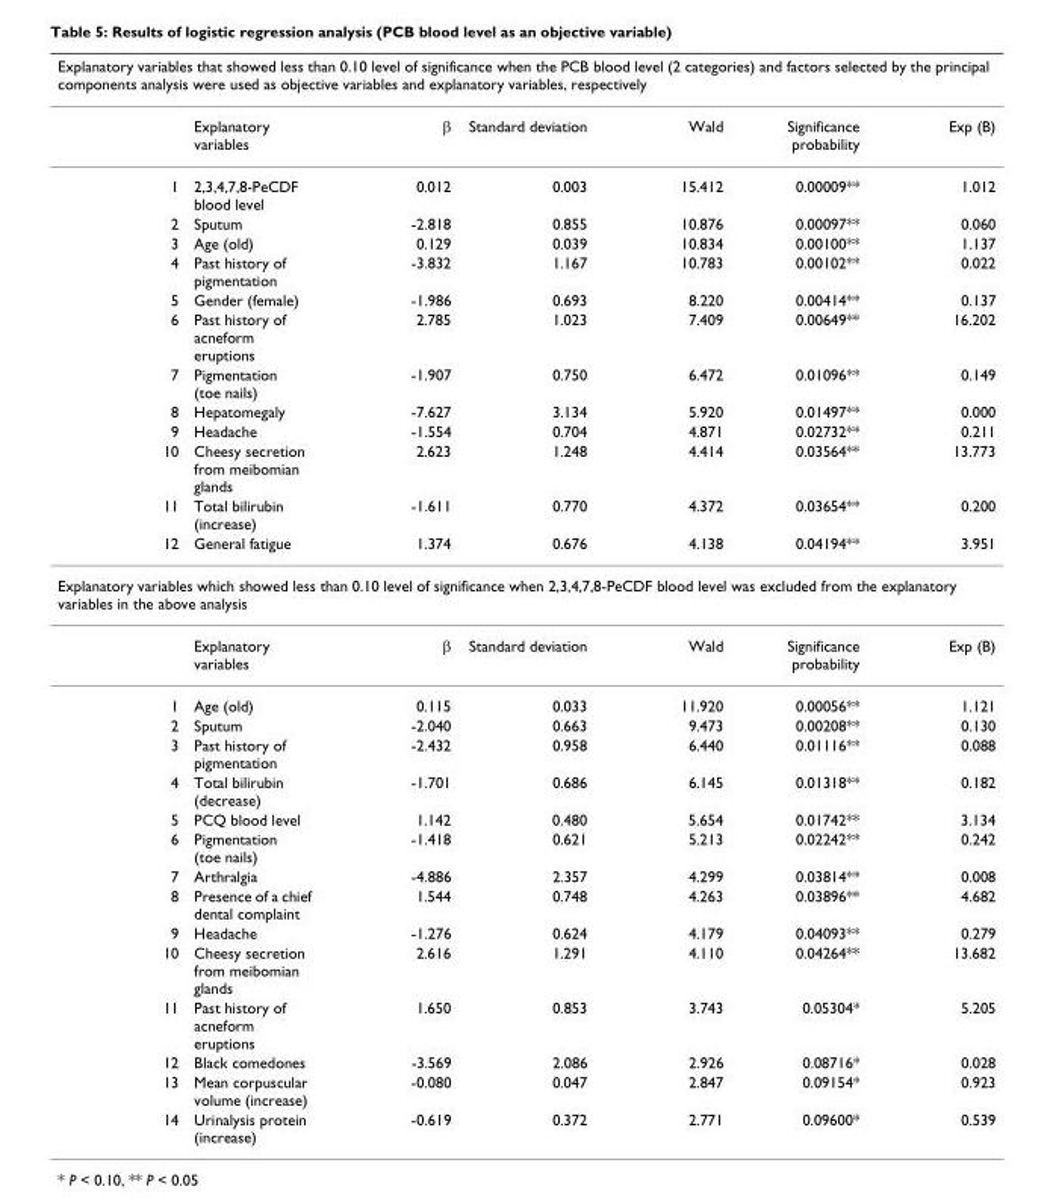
<table><thead><tr><td colspan="7">Explanatory variables that showed less than 0.10 level of significance when the PCB blood level (2 categories) and factors selected by the principal components analysis were used as objective variables and explanatory variables, respectively</td></tr><tr><td></td><td>Explanatory variables</td><td>β</td><td>Standard deviation</td><td>Wald</td><td>Significance probability</td><td>Exp (B)</td></tr></thead><tbody><tr><td>1</td><td>2,3,4,7,8-PeCDF blood level</td><td>0.012</td><td>0.003</td><td>15.412</td><td>0.00009**</td><td>1.012</td></tr><tr><td>2</td><td>Sputum</td><td>-2.818</td><td>0.855</td><td>10.876</td><td>0.00097**</td><td>0.060</td></tr><tr><td>3</td><td>Age (old)</td><td>0.129</td><td>0.039</td><td>10.834</td><td>0.00100**</td><td>1.137</td></tr><tr><td>4</td><td>Past history of pigmentation</td><td>-3.832</td><td>1.167</td><td>10.783</td><td>0.00102**</td><td>0.022</td></tr><tr><td>5</td><td>Gender (female)</td><td>-1.986</td><td>0.693</td><td>8.220</td><td>0.00414**</td><td>0.137</td></tr><tr><td>6</td><td>Past history of acneform eruptions</td><td>2.785</td><td>1.023</td><td>7.409</td><td>0.00649**</td><td>16.202</td></tr><tr><td>7</td><td>Pigmentation (toe nails)</td><td>-1.907</td><td>0.750</td><td>6.472</td><td>0.01096**</td><td>0.149</td></tr><tr><td>8</td><td>Hepatomegaly</td><td>-7.627</td><td>3.134</td><td>5.920</td><td>0.01497**</td><td>0.000</td></tr><tr><td>9</td><td>Headache</td><td>-1.554</td><td>0.704</td><td>4.871</td><td>0.02732**</td><td>0.211</td></tr><tr><td>10</td><td>Cheesy secretion from meibomian glands</td><td>2.623</td><td>1.248</td><td>4.414</td><td>0.03564**</td><td>13.773</td></tr><tr><td>11</td><td>Total bilirubin (increase)</td><td>-1.611</td><td>0.770</td><td>4.372</td><td>0.03654**</td><td>0.200</td></tr><tr><td>12</td><td>General fatigue</td><td>1.374</td><td>0.676</td><td>4.138</td><td>0.04194**</td><td>3.951</td></tr><tr><td colspan="7">Explanatory variables which showed less than 0.10 level of significance when 2,3,4,7,8-PeCDF blood level was excluded from the explanatory variables in the above analysis</td></tr><tr><td></td><td>Explanatory variables</td><td>β</td><td>Standard deviation</td><td>Wald</td><td>Significance probability</td><td>Exp (B)</td></tr><tr><td>1</td><td>Age (old)</td><td>0.115</td><td>0.033</td><td>11.920</td><td>0.00056**</td><td>1.121</td></tr><tr><td>2</td><td>Sputum</td><td>-2.040</td><td>0.663</td><td>9.473</td><td>0.00208**</td><td>0.130</td></tr><tr><td>3</td><td>Past history of pigmentation</td><td>-2.432</td><td>0.958</td><td>6.440</td><td>0.01116**</td><td>0.088</td></tr><tr><td>4</td><td>Total bilirubin (decrease)</td><td>-1.701</td><td>0.686</td><td>6.145</td><td>0.01318**</td><td>0.182</td></tr><tr><td>5</td><td>PCQ blood level</td><td>1.142</td><td>0.480</td><td>5.654</td><td>0.01742**</td><td>3.134</td></tr><tr><td>6</td><td>Pigmentation (toe nails)</td><td>-1.418</td><td>0.621</td><td>5.213</td><td>0.02242**</td><td>0.242</td></tr><tr><td>7</td><td>Arthralgia</td><td>-4.886</td><td>2.357</td><td>4.299</td><td>0.03814**</td><td>0.008</td></tr><tr><td>8</td><td>Presence of a chief dental complaint</td><td>1.544</td><td>0.748</td><td>4.263</td><td>0.03896**</td><td>4.682</td></tr><tr><td>9</td><td>Headache</td><td>-1.276</td><td>0.624</td><td>4.179</td><td>0.04093**</td><td>0.279</td></tr><tr><td>10</td><td>Cheesy secretion from meibomian glands</td><td>2.616</td><td>1.291</td><td>4.110</td><td>0.04264**</td><td>13.682</td></tr><tr><td>11</td><td>Past history of acneform eruptions</td><td>1.650</td><td>0.853</td><td>3.743</td><td>0.05304*</td><td>5.205</td></tr><tr><td>12</td><td>Black comedones</td><td>-3.569</td><td>2.086</td><td>2.926</td><td>0.08716*</td><td>0.028</td></tr><tr><td>13</td><td>Mean corpuscular volume (increase)</td><td>-0.080</td><td>0.047</td><td>2.847</td><td>0.09154*</td><td>0.923</td></tr><tr><td>14</td><td>Urinalysis protein (increase)</td><td>-0.619</td><td>0.372</td><td>2.771</td><td>0.09600*</td><td>0.539</td></tr></tbody></table>